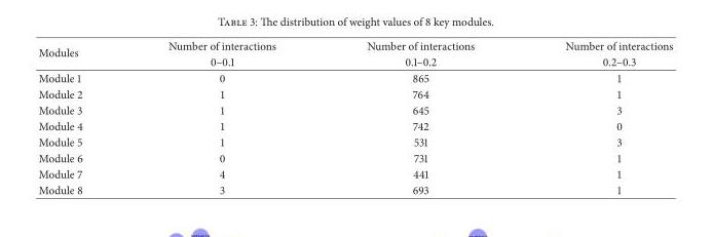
<table><thead><tr><td rowspan="2">Modules</td><td rowspan="2">Number of interactions 0–0.1</td><td rowspan="2">Number of interactions 0.1–0.2</td><td rowspan="2">Number of interactions 0.2–0.3</td></tr><tr></tr></thead><tbody><tr><td>Module 1</td><td>0</td><td>865</td><td>1</td></tr><tr><td>Module 2</td><td>1</td><td>764</td><td>1</td></tr><tr><td>Module 3</td><td>1</td><td>645</td><td>3</td></tr><tr><td>Module 4</td><td>1</td><td>742</td><td>0</td></tr><tr><td>Module 5</td><td>1</td><td>531</td><td>3</td></tr><tr><td>Module 6</td><td>0</td><td>731</td><td>1</td></tr><tr><td>Module 7</td><td>4</td><td>441</td><td>1</td></tr><tr><td>Module 8</td><td>3</td><td>693</td><td>1</td></tr></tbody></table>